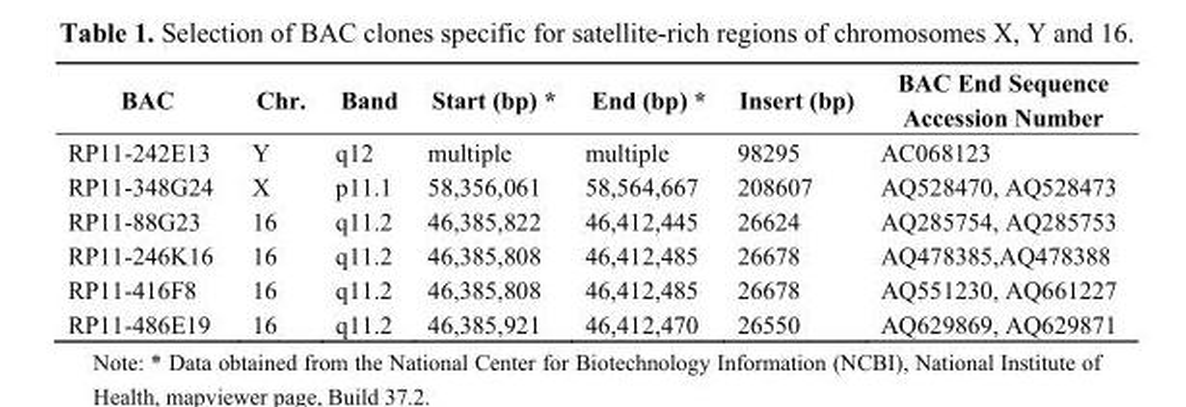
<table><thead><tr><td>BAC</td><td>Chr.</td><td>Band</td><td>Start (bp) *</td><td>End (bp) *</td><td>Insert (bp)</td><td>BAC End Sequence Accession Number</td></tr></thead><tbody><tr><td>RP11-242E13</td><td>Y</td><td>q12</td><td>multiple</td><td>multiple</td><td>98295</td><td>AC068123</td></tr><tr><td>RP11-348G24</td><td>X</td><td>p11.1</td><td>58,356,061</td><td>58,564,667</td><td>208607</td><td>AQ528470, AQ528473</td></tr><tr><td>RP11-88G23</td><td>16</td><td>q11.2</td><td>46,385,822</td><td>46,412,445</td><td>26624</td><td>AQ285754, AQ285753</td></tr><tr><td>RP11-246K16</td><td>16</td><td>q11.2</td><td>46,385,808</td><td>46,412,485</td><td>26678</td><td>AQ478385,AQ478388</td></tr><tr><td>RP11-416F8</td><td>16</td><td>q11.2</td><td>46,385,808</td><td>46,412,485</td><td>26678</td><td>AQ551230, AQ661227</td></tr><tr><td>RP11-486E19</td><td>16</td><td>q11.2</td><td>46,385,921</td><td>46,412,470</td><td>26550</td><td>AQ629869, AQ629871</td></tr></tbody></table>